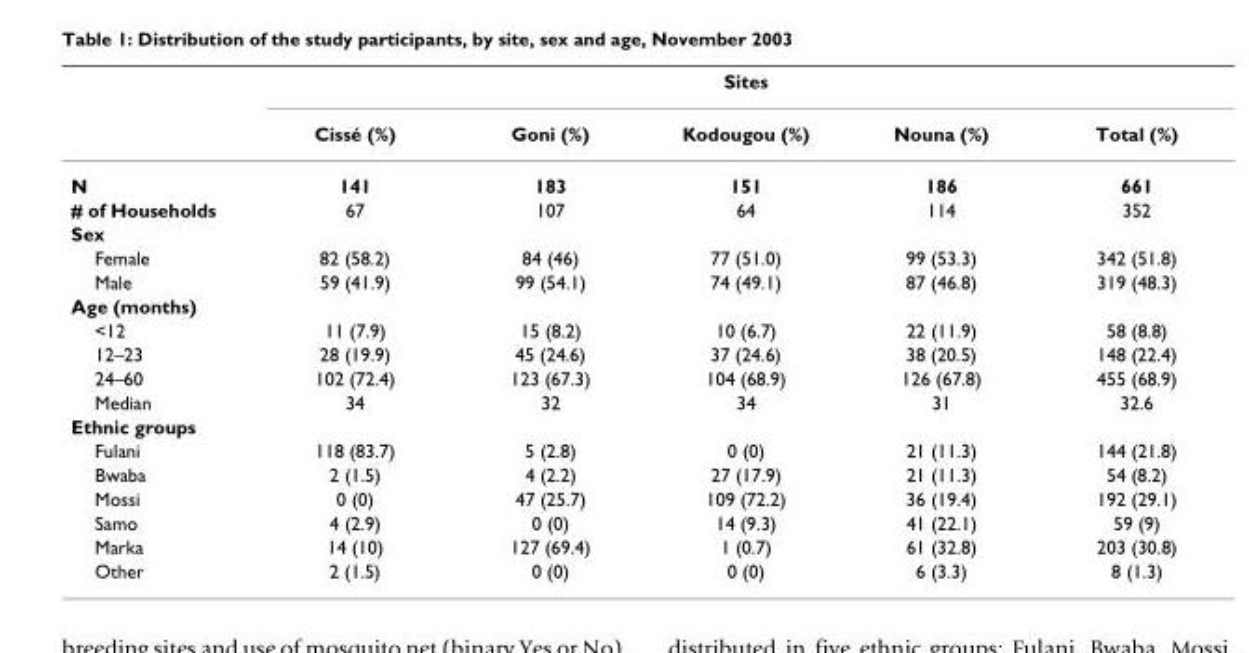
<table><thead><tr><td rowspan="2"></td><td colspan="5">Sites</td></tr><tr><td>Cissé (%)</td><td>Goni (%)</td><td>Kodougou (%)</td><td>Nouna (%)</td><td>Total (%)</td></tr></thead><tbody><tr><td>N</td><td>141</td><td>183</td><td>151</td><td>186</td><td>661</td></tr><tr><td># of Households</td><td>67</td><td>107</td><td>64</td><td>114</td><td>352</td></tr><tr><td colspan="6">Sex</td></tr><tr><td>Female</td><td>82 (58.2)</td><td>84 (46)</td><td>77 (51.0)</td><td>99 (53.3)</td><td>342 (51.8)</td></tr><tr><td>Male</td><td>59 (41.9)</td><td>99 (54.1)</td><td>74 (49.1)</td><td>87 (46.8)</td><td>319 (48.3)</td></tr><tr><td colspan="6">Age (months)</td></tr><tr><td>&lt;12</td><td>11 (7.9)</td><td>15 (8.2)</td><td>10 (6.7)</td><td>22 (11.9)</td><td>58 (8.8)</td></tr><tr><td>12–23</td><td>28 (19.9)</td><td>45 (24.6)</td><td>37 (24.6)</td><td>38 (20.5)</td><td>148 (22.4)</td></tr><tr><td>24–60</td><td>102 (72.4)</td><td>123 (67.3)</td><td>104 (68.9)</td><td>126 (67.8)</td><td>455 (68.9)</td></tr><tr><td>Median</td><td>34</td><td>32</td><td>34</td><td>31</td><td>32.6</td></tr><tr><td colspan="6">Ethnic groups</td></tr><tr><td>Fulani</td><td>118 (83.7)</td><td>5 (2.8)</td><td>0 (0)</td><td>21 (11.3)</td><td>144 (21.8)</td></tr><tr><td>Bwaba</td><td>2 (1.5)</td><td>4 (2.2)</td><td>27 (17.9)</td><td>21 (11.3)</td><td>54 (8.2)</td></tr><tr><td>Mossi</td><td>0 (0)</td><td>47 (25.7)</td><td>109 (72.2)</td><td>36 (19.4)</td><td>192 (29.1)</td></tr><tr><td>Samo</td><td>4 (2.9)</td><td>0 (0)</td><td>14 (9.3)</td><td>41 (22.1)</td><td>59 (9)</td></tr><tr><td>Marka</td><td>14 (10)</td><td>127 (69.4)</td><td>1 (0.7)</td><td>61 (32.8)</td><td>203 (30.8)</td></tr><tr><td>Other</td><td>2 (1.5)</td><td>0 (0)</td><td>0 (0)</td><td>6 (3.3)</td><td>8 (1.3)</td></tr></tbody></table>